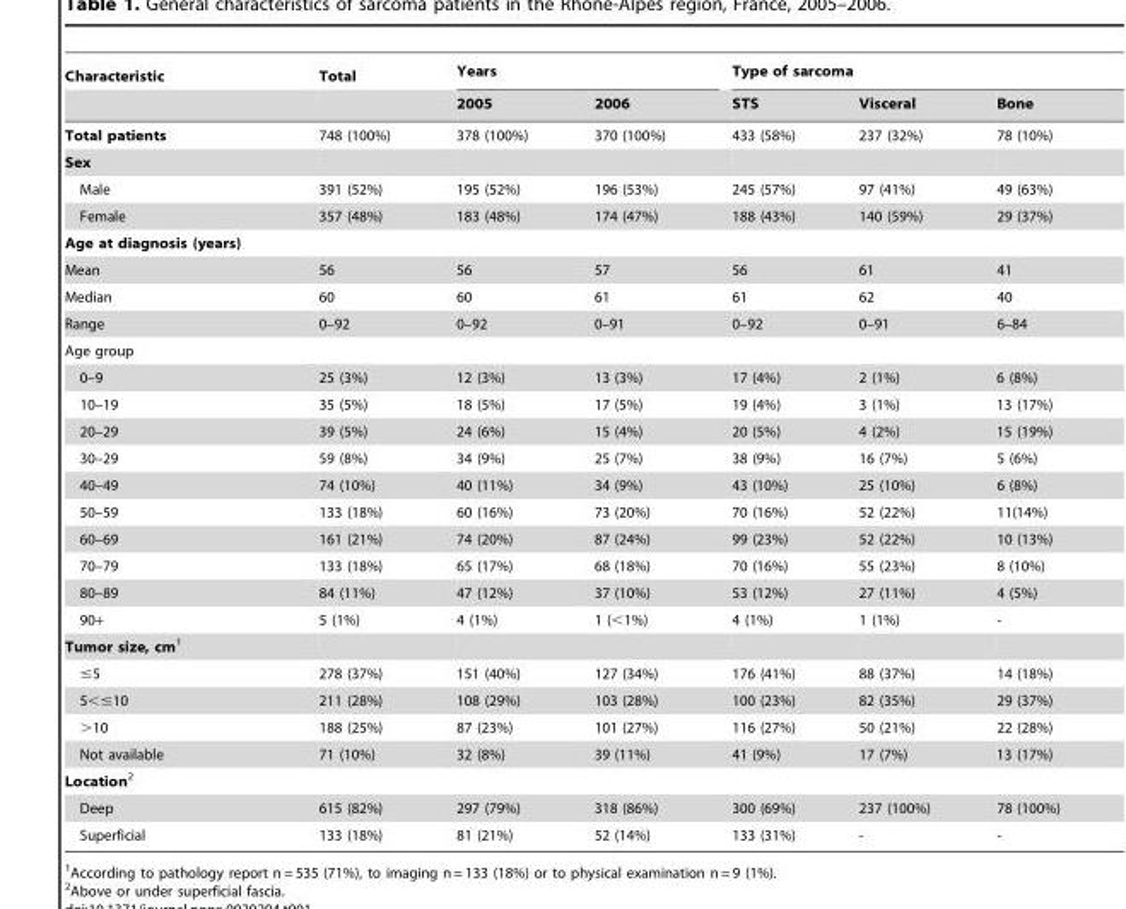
<table><thead><tr><td rowspan="2">Characteristic</td><td rowspan="2">Total</td><td colspan="2">Years</td><td colspan="3">Type of sarcoma</td></tr><tr><td>2005</td><td>2006</td><td>STS</td><td>Visceral</td><td>Bone</td></tr></thead><tbody><tr><td>Total patients</td><td>748 (100%)</td><td>378 (100%)</td><td>370 (100%)</td><td>433 (58%)</td><td>237 (32%)</td><td>78 (10%)</td></tr><tr><td colspan="7">Sex</td></tr><tr><td>Male</td><td>391 (52%)</td><td>195 (52%)</td><td>196 (53%)</td><td>245 (57%)</td><td>97 (41%)</td><td>49 (63%)</td></tr><tr><td>Female</td><td>357 (48%)</td><td>183 (48%)</td><td>174 (47%)</td><td>188 (43%)</td><td>140 (59%)</td><td>29 (37%)</td></tr><tr><td colspan="7">Age at diagnosis (years)</td></tr><tr><td>Mean</td><td>56</td><td>56</td><td>57</td><td>56</td><td>61</td><td>41</td></tr><tr><td>Median</td><td>60</td><td>60</td><td>61</td><td>61</td><td>62</td><td>40</td></tr><tr><td>Range</td><td>0–92</td><td>0–92</td><td>0–91</td><td>0–92</td><td>0–91</td><td>6–84</td></tr><tr><td colspan="7">Age group</td></tr><tr><td>0–9</td><td>25 (3%)</td><td>12 (3%)</td><td>13 (3%)</td><td>17 (4%)</td><td>2 (1%)</td><td>6 (8%)</td></tr><tr><td>10–19</td><td>35 (5%)</td><td>18 (5%)</td><td>17 (5%)</td><td>19 (4%)</td><td>3 (1%)</td><td>13 (17%)</td></tr><tr><td>20–29</td><td>39 (5%)</td><td>24 (6%)</td><td>15 (4%)</td><td>20 (5%)</td><td>4 (2%)</td><td>15 (19%)</td></tr><tr><td>30–29</td><td>59 (8%)</td><td>34 (9%)</td><td>25 (7%)</td><td>38 (9%)</td><td>16 (7%)</td><td>5 (6%)</td></tr><tr><td>40–49</td><td>74 (10%)</td><td>40 (11%)</td><td>34 (9%)</td><td>43 (10%)</td><td>25 (10%)</td><td>6 (8%)</td></tr><tr><td>50–59</td><td>133 (18%)</td><td>60 (16%)</td><td>73 (20%)</td><td>70 (16%)</td><td>52 (22%)</td><td>11(14%)</td></tr><tr><td>60–69</td><td>161 (21%)</td><td>74 (20%)</td><td>87 (24%)</td><td>99 (23%)</td><td>52 (22%)</td><td>10 (13%)</td></tr><tr><td>70–79</td><td>133 (18%)</td><td>65 (17%)</td><td>68 (18%)</td><td>70 (16%)</td><td>55 (23%)</td><td>8 (10%)</td></tr><tr><td>80–89</td><td>84 (11%)</td><td>47 (12%)</td><td>37 (10%)</td><td>53 (12%)</td><td>27 (11%)</td><td>4 (5%)</td></tr><tr><td>90+</td><td>5 (1%)</td><td>4 (1%)</td><td>1 (&lt;1%)</td><td>4 (1%)</td><td>1 (1%)</td><td>-</td></tr><tr><td colspan="7">Tumor size, cm1</td></tr><tr><td>≤5</td><td>278 (37%)</td><td>151 (40%)</td><td>127 (34%)</td><td>176 (41%)</td><td>88 (37%)</td><td>14 (18%)</td></tr><tr><td>5&lt;≤10</td><td>211 (28%)</td><td>108 (29%)</td><td>103 (28%)</td><td>100 (23%)</td><td>82 (35%)</td><td>29 (37%)</td></tr><tr><td>&gt;10</td><td>188 (25%)</td><td>87 (23%)</td><td>101 (27%)</td><td>116 (27%)</td><td>50 (21%)</td><td>22 (28%)</td></tr><tr><td>Not available</td><td>71 (10%)</td><td>32 (8%)</td><td>39 (11%)</td><td>41 (9%)</td><td>17 (7%)</td><td>13 (17%)</td></tr><tr><td colspan="7">Location2</td></tr><tr><td>Deep</td><td>615 (82%)</td><td>297 (79%)</td><td>318 (86%)</td><td>300 (69%)</td><td>237 (100%)</td><td>78 (100%)</td></tr><tr><td>Superficial</td><td>133 (18%)</td><td>81 (21%)</td><td>52 (14%)</td><td>133 (31%)</td><td>-</td><td>-</td></tr></tbody></table>